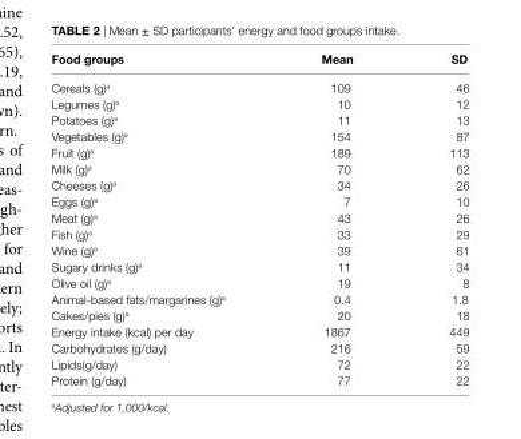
<table><thead><tr><td>Food groups</td><td>Mean</td><td>sD</td></tr></thead><tbody><tr><td>Cereals (g)<sup>a</sup></td><td>109</td><td>46</td></tr><tr><td>Legumes (g)<sup>a</sup></td><td>10</td><td>12</td></tr><tr><td>Potatoes (g)<sup>a</sup></td><td>11</td><td>13</td></tr><tr><td>Vegetables (g)<sup>a</sup></td><td>154</td><td>87</td></tr><tr><td>Fruit (g)<sup>a</sup></td><td>189</td><td>113</td></tr><tr><td>Milk (g)<sup>a</sup></td><td>70</td><td>62</td></tr><tr><td>Cheeses (g)<sup>a</sup></td><td>34</td><td>26</td></tr><tr><td>Eggs (g)<sup>a</sup></td><td>7</td><td>10</td></tr><tr><td>Meat (g)<sup>a</sup></td><td>43</td><td>26</td></tr><tr><td>Fish (g)<sup>a</sup></td><td>33</td><td>29</td></tr><tr><td>Wine (g)<sup>a</sup></td><td>39</td><td>61</td></tr><tr><td>Sugary drinks (g)<sup>a</sup></td><td>11</td><td>34</td></tr><tr><td>Olive oil (g)<sup>a</sup></td><td>19</td><td>8</td></tr><tr><td>Animal-based fats/margarines (g)<sup>a</sup></td><td>0.4</td><td>1.8</td></tr><tr><td>Cakes/pies (g)<sup>a</sup></td><td>20</td><td>18</td></tr><tr><td>Energy intake (kcal) per day</td><td>1867</td><td>449</td></tr><tr><td>Carbohydrates (g/day)</td><td>216</td><td>59</td></tr><tr><td>Lipids(g/day)</td><td>72</td><td>22</td></tr><tr><td>Protein (g/day)</td><td>77</td><td>22</td></tr></tbody></table>